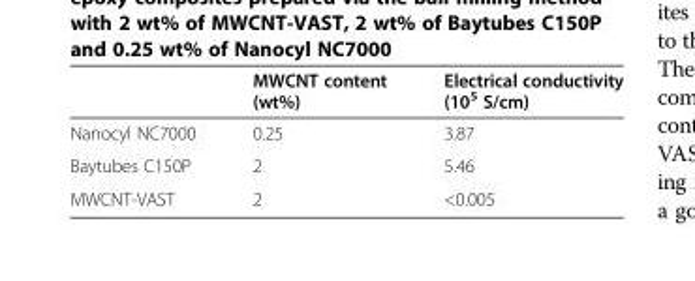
<table><thead><tr><td></td><td>MWCNT content (wt%)</td><td>Electrical conductivity (10<sup>5</sup> S/cm)</td></tr></thead><tbody><tr><td>Nanocyl NC7000</td><td>0.25</td><td>3.87</td></tr><tr><td>Baytubes C150P</td><td>2</td><td>5.46</td></tr><tr><td>MWCNT-VAST</td><td>2</td><td>&lt;0.005</td></tr></tbody></table>